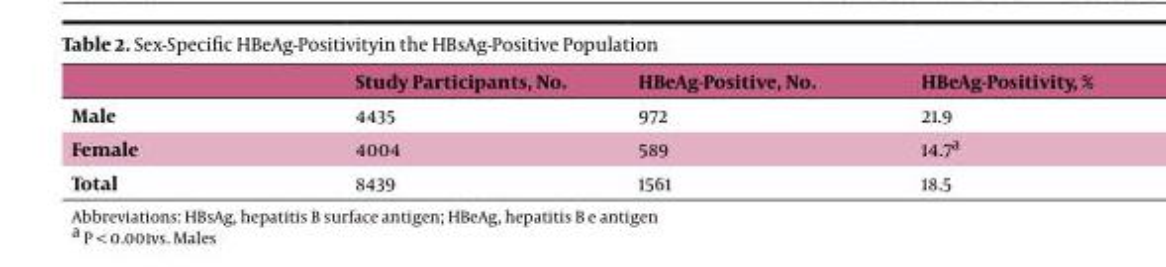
<table><thead><tr><td></td><td>Study Participants, No.</td><td>HBeAg-Positive, No.</td><td>HBeAg-Positivity, %</td></tr></thead><tbody><tr><td>Male</td><td>4435</td><td>972</td><td>21.9</td></tr><tr><td>Female</td><td>4004</td><td>589</td><td>14.7a</td></tr><tr><td>Total</td><td>8439</td><td>1561</td><td>18.5</td></tr></tbody></table>